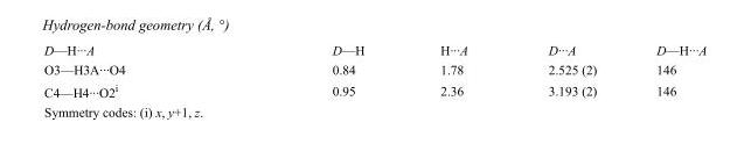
<table><tbody><tr><td>D—H···A</td><td>D—H</td><td>H···A</td><td>D···A</td><td>D—H···A</td></tr><tr><td>O3—H3A···O4</td><td>0.84</td><td>1.78</td><td>2.525 (2)</td><td>146</td></tr><tr><td>C4—H4···O2<sup>i</sup></td><td>0.95</td><td>2.36</td><td>3.193 (2)</td><td>146</td></tr></tbody></table>